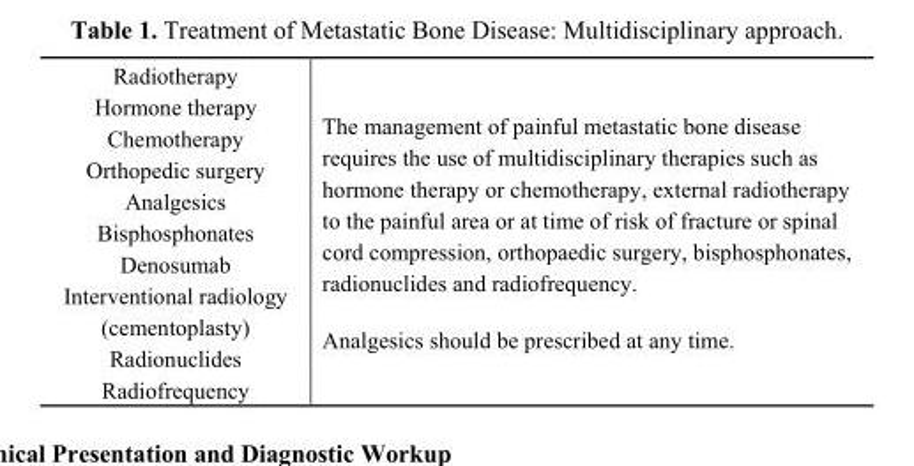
<table><tbody><tr><td>Radiotherapy</td><td rowspan="10">The management of painful metastatic bone disease requires the use of multidisciplinary therapies such as hormone therapy or chemotherapy, external radiotherapy to the painful area or at time of risk of fracture or spinal cord compression, orthopaedic surgery, bisphosphonates, radionuclides and radiofrequency. Analgesics should be prescribed at any time.</td></tr><tr><td>Hormone therapy</td></tr><tr><td>Chemotherapy</td></tr><tr><td>Orthopedic surgery</td></tr><tr><td>Analgesics</td></tr><tr><td>Bisphosphonates</td></tr><tr><td>Denosumab</td></tr><tr><td>Interventional radiology (cementoplasty)</td></tr><tr><td>Radionuclides</td></tr><tr><td>Radiofrequency</td></tr></tbody></table>